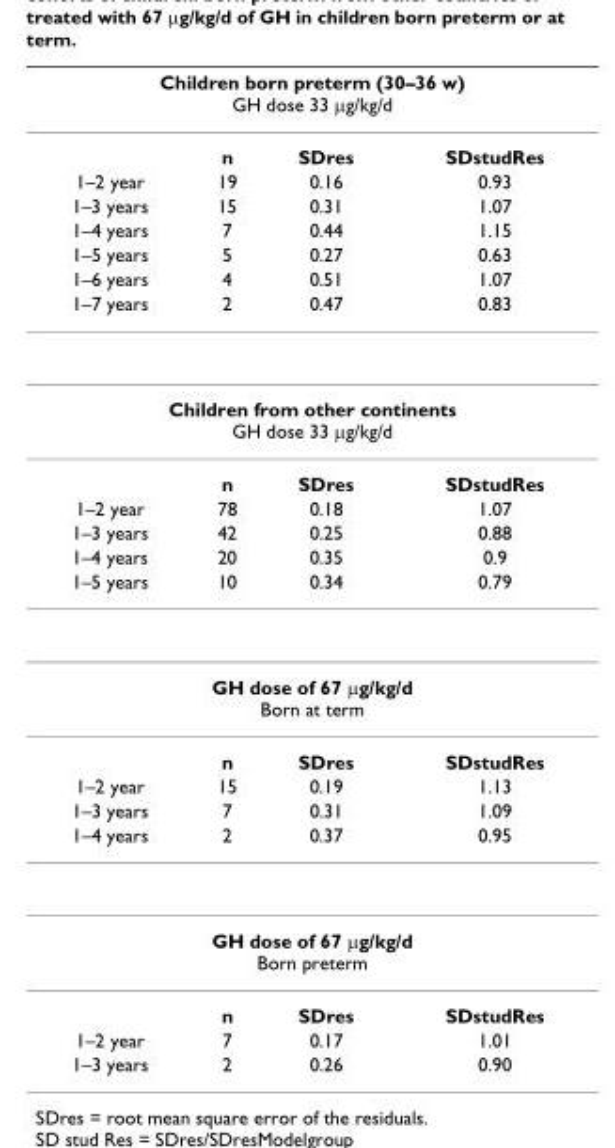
<table><thead><tr><td colspan="4">Children born preterm (30–36 w) GH dose 33 μg/kg/d</td></tr><tr><td></td><td>n</td><td>SDres</td><td>SDstudRes</td></tr></thead><tbody><tr><td>1–2 year</td><td>19</td><td>0.16</td><td>0.93</td></tr><tr><td>1–3 years</td><td>15</td><td>0.31</td><td>1.07</td></tr><tr><td>1–4 years</td><td>7</td><td>0.44</td><td>1.15</td></tr><tr><td>1–5 years</td><td>5</td><td>0.27</td><td>0.63</td></tr><tr><td>1–6 years</td><td>4</td><td>0.51</td><td>1.07</td></tr><tr><td>1–7 years</td><td>2</td><td>0.47</td><td>0.83</td></tr><tr><td colspan="4">Children from other continents GH dose 33 μg/kg/d</td></tr><tr><td></td><td>n</td><td>SDres</td><td>SDstudRes</td></tr><tr><td>1–2 year</td><td>78</td><td>0.18</td><td>1.07</td></tr><tr><td>1–3 years</td><td>42</td><td>0.25</td><td>0.88</td></tr><tr><td>1–4 years</td><td>20</td><td>0.35</td><td>0.9</td></tr><tr><td>1–5 years</td><td>10</td><td>0.34</td><td>0.79</td></tr><tr><td colspan="4">GH dose of 67 μg/kg/d Born at term</td></tr><tr><td></td><td>n</td><td>SDres</td><td>SDstudRes</td></tr><tr><td>1–2 year</td><td>15</td><td>0.19</td><td>1.13</td></tr><tr><td>1–3 years</td><td>7</td><td>0.31</td><td>1.09</td></tr><tr><td>1–4 years</td><td>2</td><td>0.37</td><td>0.95</td></tr><tr><td colspan="4">GH dose of 67 μg/kg/d Born preterm</td></tr><tr><td></td><td>n</td><td>SDres</td><td>SDstudRes</td></tr><tr><td>1–2 year</td><td>7</td><td>0.17</td><td>1.01</td></tr><tr><td>1–3 years</td><td>2</td><td>0.26</td><td>0.90</td></tr></tbody></table>